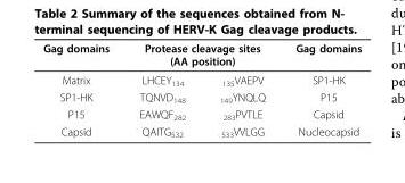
<table><thead><tr><td rowspan="2">Gag domains Matrix</td><td colspan="2">Protease cleavage sites (AA position)</td><td rowspan="2">Gag domains SP1-HK</td></tr><tr><td>LHCEY<sub>134</sub></td><td><sub>135</sub>VAEPV</td></tr></thead><tbody><tr><td>SP1-HK</td><td>TQNVD<sub>148</sub></td><td><sub>149</sub>YNQLQ</td><td>P15</td></tr><tr><td>P15</td><td>EAWQF<sub>282</sub></td><td><sub>283</sub>PVTLE</td><td>Capsid</td></tr><tr><td>Capsid</td><td>QAITG<sub>532</sub></td><td><sub>533</sub>VVLGG</td><td>Nucleocapsid</td></tr></tbody></table>